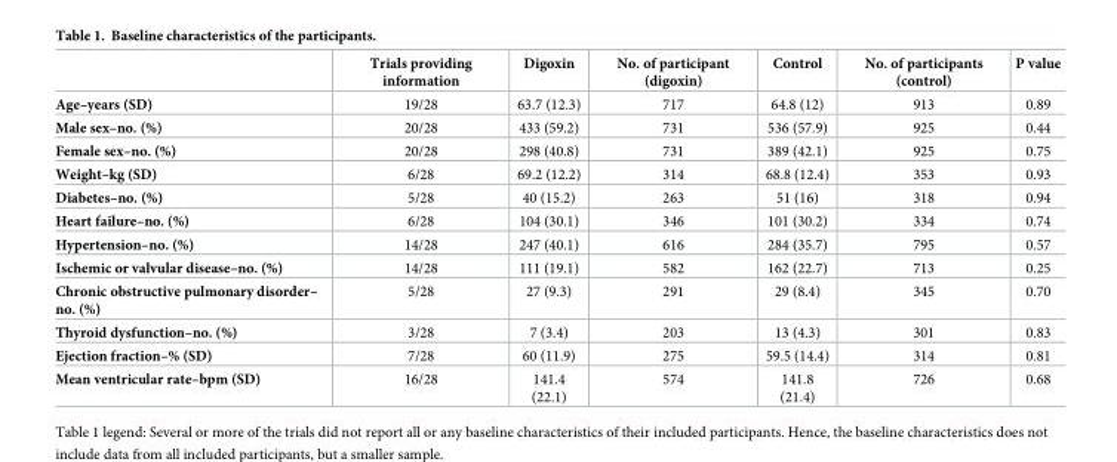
<table><thead><tr><td></td><td>Trials providing information</td><td>Digoxin</td><td>No. of participant (digoxin)</td><td>Control</td><td>No. of participants (control)</td><td>P value</td></tr></thead><tbody><tr><td>Age–years (SD)</td><td>19/28</td><td>63.7 (12.3)</td><td>717</td><td>64.8 (12)</td><td>913</td><td>0.89</td></tr><tr><td>Male sex–no. (%)</td><td>20/28</td><td>433 (59.2)</td><td>731</td><td>536 (57.9)</td><td>925</td><td>0.44</td></tr><tr><td>Female sex–no. (%)</td><td>20/28</td><td>298 (40.8)</td><td>731</td><td>389 (42.1)</td><td>925</td><td>0.75</td></tr><tr><td>Weight–kg (SD)</td><td>6/28</td><td>69.2 (12.2)</td><td>314</td><td>68.8 (12.4)</td><td>353</td><td>0.93</td></tr><tr><td>Diabetes–no. (%)</td><td>5/28</td><td>40 (15.2)</td><td>263</td><td>51 (16)</td><td>318</td><td>0.94</td></tr><tr><td>Heart failure–no. (%)</td><td>6/28</td><td>104 (30.1)</td><td>346</td><td>101 (30.2)</td><td>334</td><td>0.74</td></tr><tr><td>Hypertension–no. (%)</td><td>14/28</td><td>247 (40.1)</td><td>616</td><td>284 (35.7)</td><td>795</td><td>0.57</td></tr><tr><td>Ischemic or valvular disease–no. (%)</td><td>14/28</td><td>111 (19.1)</td><td>582</td><td>162 (22.7)</td><td>713</td><td>0.25</td></tr><tr><td>Chronic obstructive pulmonary disorder– no. (%)</td><td>5/28</td><td>27 (9.3)</td><td>291</td><td>29 (8.4)</td><td>345</td><td>0.70</td></tr><tr><td>Thyroid dysfunction–no. (%)</td><td>3/28</td><td>7 (3.4)</td><td>203</td><td>13 (4.3)</td><td>301</td><td>0.83</td></tr><tr><td>Ejection fraction–% (SD)</td><td>7/28</td><td>60 (11.9)</td><td>275</td><td>59.5 (14.4)</td><td>314</td><td>0.81</td></tr><tr><td>Mean ventricular rate–bpm (SD)</td><td>16/28</td><td>141.4 (22.1)</td><td>574</td><td>141.8 (21.4)</td><td>726</td><td>0.68</td></tr></tbody></table>